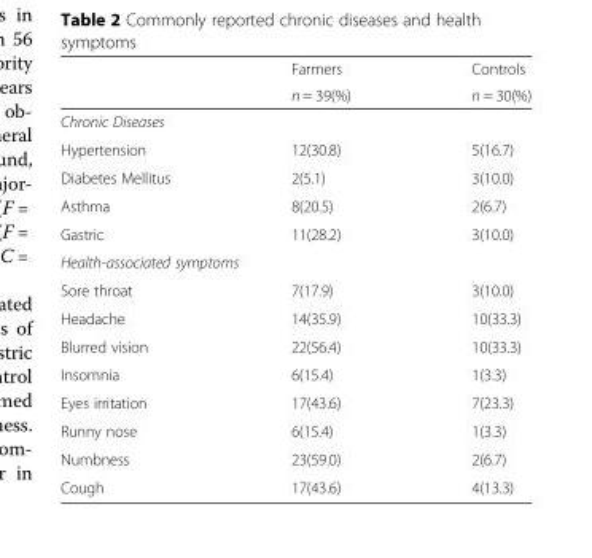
<table><thead><tr><td rowspan="2"></td><td rowspan="2">Farmers n = 39(%)</td><td rowspan="2">Controls n = 30(%)</td></tr><tr></tr></thead><tbody><tr><td colspan="3">Chronic Diseases</td></tr><tr><td>Hypertension</td><td>12(30.8)</td><td>5(16.7)</td></tr><tr><td>Diabetes Mellitus</td><td>2(5.1)</td><td>3(10.0)</td></tr><tr><td>Asthma</td><td>8(20.5)</td><td>2(6.7)</td></tr><tr><td>Gastric</td><td>11(28.2)</td><td>3(10.0)</td></tr><tr><td colspan="3">Health-associated symptoms</td></tr><tr><td>Sore throat</td><td>7(17.9)</td><td>3(10.0)</td></tr><tr><td>Headache</td><td>14(35.9)</td><td>10(33.3)</td></tr><tr><td>Blurred vision</td><td>22(56.4)</td><td>10(33.3)</td></tr><tr><td>Insomnia</td><td>6(15.4)</td><td>1(3.3)</td></tr><tr><td>Eyes irritation</td><td>17(43.6)</td><td>7(23.3)</td></tr><tr><td>Runny nose</td><td>6(15.4)</td><td>1(3.3)</td></tr><tr><td>Numbness</td><td>23(59.0)</td><td>2(6.7)</td></tr><tr><td>Cough</td><td>17(43.6)</td><td>4(13.3)</td></tr></tbody></table>